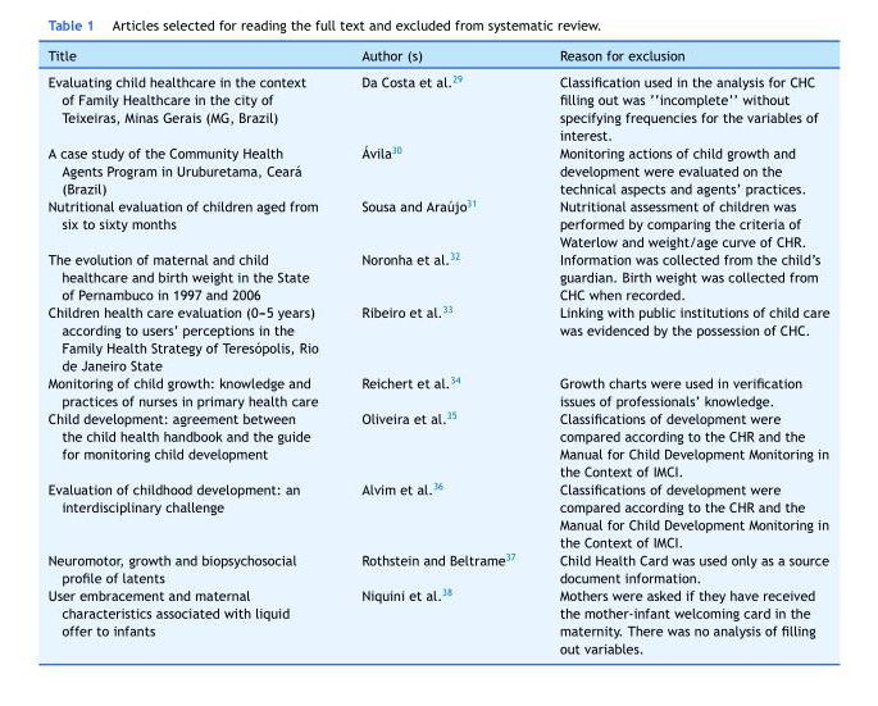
<table><thead><tr><td>Title</td><td>Author (s)</td><td>Reason for exclusion</td></tr></thead><tbody><tr><td>Evaluating child healthcare in the context of Family Healthcare in the city of Teixeiras, Minas Gerais (MG, Brazil)</td><td>Da Costa et al.29</td><td>Classification used in the analysis for CHC filling out was ‘‘incomplete’’ without specifying frequencies for the variables of interest.</td></tr><tr><td>A case study of the Community Health Agents Program in Uruburetama, Ceará (Brazil)</td><td>Ávila30</td><td>Monitoring actions of child growth and development were evaluated on the technical aspects and agents’ practices.</td></tr><tr><td>Nutritional evaluation of children aged from six to sixty months</td><td>Sousa and Araújo31</td><td>Nutritional assessment of children was performed by comparing the criteria of Waterlow and weight/age curve of CHR.</td></tr><tr><td>The evolution of maternal and child healthcare and birth weight in the State of Pernambuco in 1997 and 2006</td><td>Noronha et al.32</td><td>Information was collected from the child’s guardian. Birth weight was collected from CHC when recorded.</td></tr><tr><td>Children health care evaluation (0---5 years) according to users’ perceptions in the Family Health Strategy of Teresópolis, Rio de Janeiro State</td><td>Ribeiro et al.33</td><td>Linking with public institutions of child care was evidenced by the possession of CHC.</td></tr><tr><td>Monitoring of child growth: knowledge and practices of nurses in primary health care</td><td>Reichert et al.34</td><td>Growth charts were used in verification issues of professionals’ knowledge.</td></tr><tr><td>Child development: agreement between the child health handbook and the guide for monitoring child development</td><td>Oliveira et al.35</td><td>Classifications of development were compared according to the CHR and the Manual for Child Development Monitoring in the Context of IMCI.</td></tr><tr><td>Evaluation of childhood development: an interdisciplinary challenge</td><td>Alvim et al.36</td><td>Classifications of development were compared according to the CHR and the Manual for Child Development Monitoring in the Context of IMCI.</td></tr><tr><td>Neuromotor, growth and biopsychosocial profile of latents</td><td>Rothstein and Beltrame37</td><td>Child Health Card was used only as a source document information.</td></tr><tr><td>User embracement and maternal characteristics associated with liquid offer to infants</td><td>Niquini et al.38</td><td>Mothers were asked if they have received the mother-infant welcoming card in the maternity. There was no analysis of filling out variables.</td></tr></tbody></table>